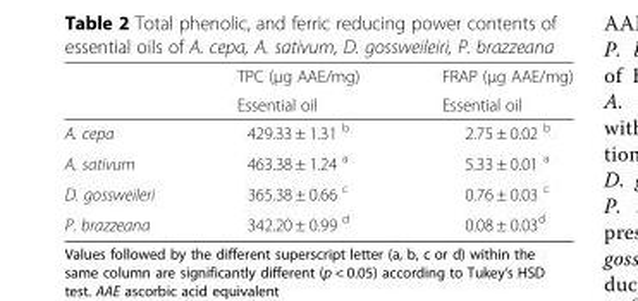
<table><thead><tr><td rowspan="2"></td><td rowspan="2">TPC (μg AAE/mg) Essential oil</td><td rowspan="2">FRAP (μg AAE/mg) Essential oil</td></tr><tr></tr></thead><tbody><tr><td>A. cepa</td><td>429.33 ± 1.31 <sup>b</sup></td><td>2.75 ± 0.02 <sup>b</sup></td></tr><tr><td>A. sativum</td><td>463.38 ± 1.24 <sup>a</sup></td><td>5.33 ± 0.01 <sup>a</sup></td></tr><tr><td>D. gossweileri</td><td>365.38 ± 0.66 <sup>c</sup></td><td>0.76 ± 0.03 <sup>c</sup></td></tr><tr><td>P. brazzeana</td><td>342.20 ± 0.99 <sup>d</sup></td><td>0.08 ± 0.03<sup>d</sup></td></tr></tbody></table>